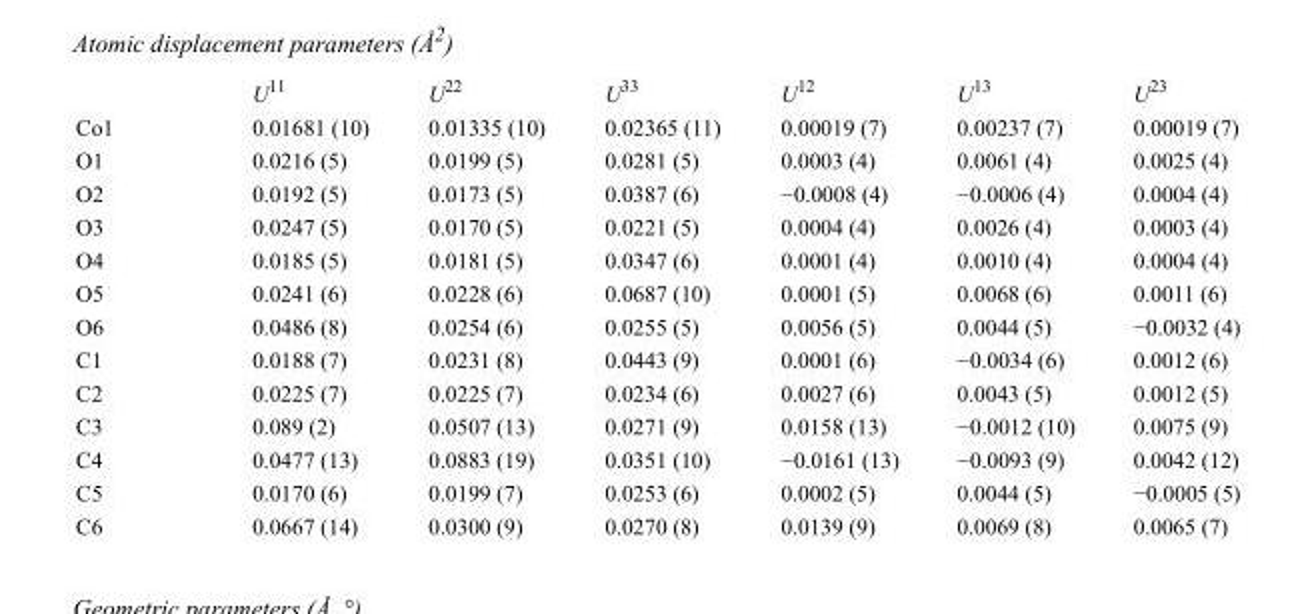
<table><thead><tr><td></td><td>U<sup>11</sup></td><td>U<sup>22</sup></td><td>U<sup>33</sup></td><td>U<sup>12</sup></td><td>U<sup>13</sup></td><td>U<sup>23</sup></td></tr></thead><tbody><tr><td>Co1</td><td>0.01681 (10)</td><td>0.01335 (10)</td><td>0.02365 (11)</td><td>0.00019 (7)</td><td>0.00237 (7)</td><td>0.00019 (7)</td></tr><tr><td>O1</td><td>0.0216 (5)</td><td>0.0199 (5)</td><td>0.0281 (5)</td><td>0.0003 (4)</td><td>0.0061 (4)</td><td>0.0025 (4)</td></tr><tr><td>O2</td><td>0.0192 (5)</td><td>0.0173 (5)</td><td>0.0387 (6)</td><td>−0.0008 (4)</td><td>−0.0006 (4)</td><td>0.0004 (4)</td></tr><tr><td>O3</td><td>0.0247 (5)</td><td>0.0170 (5)</td><td>0.0221 (5)</td><td>0.0004 (4)</td><td>0.0026 (4)</td><td>0.0003 (4)</td></tr><tr><td>O4</td><td>0.0185 (5)</td><td>0.0181 (5)</td><td>0.0347 (6)</td><td>0.0001 (4)</td><td>0.0010 (4)</td><td>0.0004 (4)</td></tr><tr><td>O5</td><td>0.0241 (6)</td><td>0.0228 (6)</td><td>0.0687 (10)</td><td>0.0001 (5)</td><td>0.0068 (6)</td><td>0.0011 (6)</td></tr><tr><td>O6</td><td>0.0486 (8)</td><td>0.0254 (6)</td><td>0.0255 (5)</td><td>0.0056 (5)</td><td>0.0044 (5)</td><td>−0.0032 (4)</td></tr><tr><td>C1</td><td>0.0188 (7)</td><td>0.0231 (8)</td><td>0.0443 (9)</td><td>0.0001 (6)</td><td>−0.0034 (6)</td><td>0.0012 (6)</td></tr><tr><td>C2</td><td>0.0225 (7)</td><td>0.0225 (7)</td><td>0.0234 (6)</td><td>0.0027 (6)</td><td>0.0043 (5)</td><td>0.0012 (5)</td></tr><tr><td>C3</td><td>0.089 (2)</td><td>0.0507 (13)</td><td>0.0271 (9)</td><td>0.0158 (13)</td><td>−0.0012 (10)</td><td>0.0075 (9)</td></tr><tr><td>C4</td><td>0.0477 (13)</td><td>0.0883 (19)</td><td>0.0351 (10)</td><td>−0.0161 (13)</td><td>−0.0093 (9)</td><td>0.0042 (12)</td></tr><tr><td>C5</td><td>0.0170 (6)</td><td>0.0199 (7)</td><td>0.0253 (6)</td><td>0.0002 (5)</td><td>0.0044 (5)</td><td>−0.0005 (5)</td></tr><tr><td>C6</td><td>0.0667 (14)</td><td>0.0300 (9)</td><td>0.0270 (8)</td><td>0.0139 (9)</td><td>0.0069 (8)</td><td>0.0065 (7)</td></tr></tbody></table>